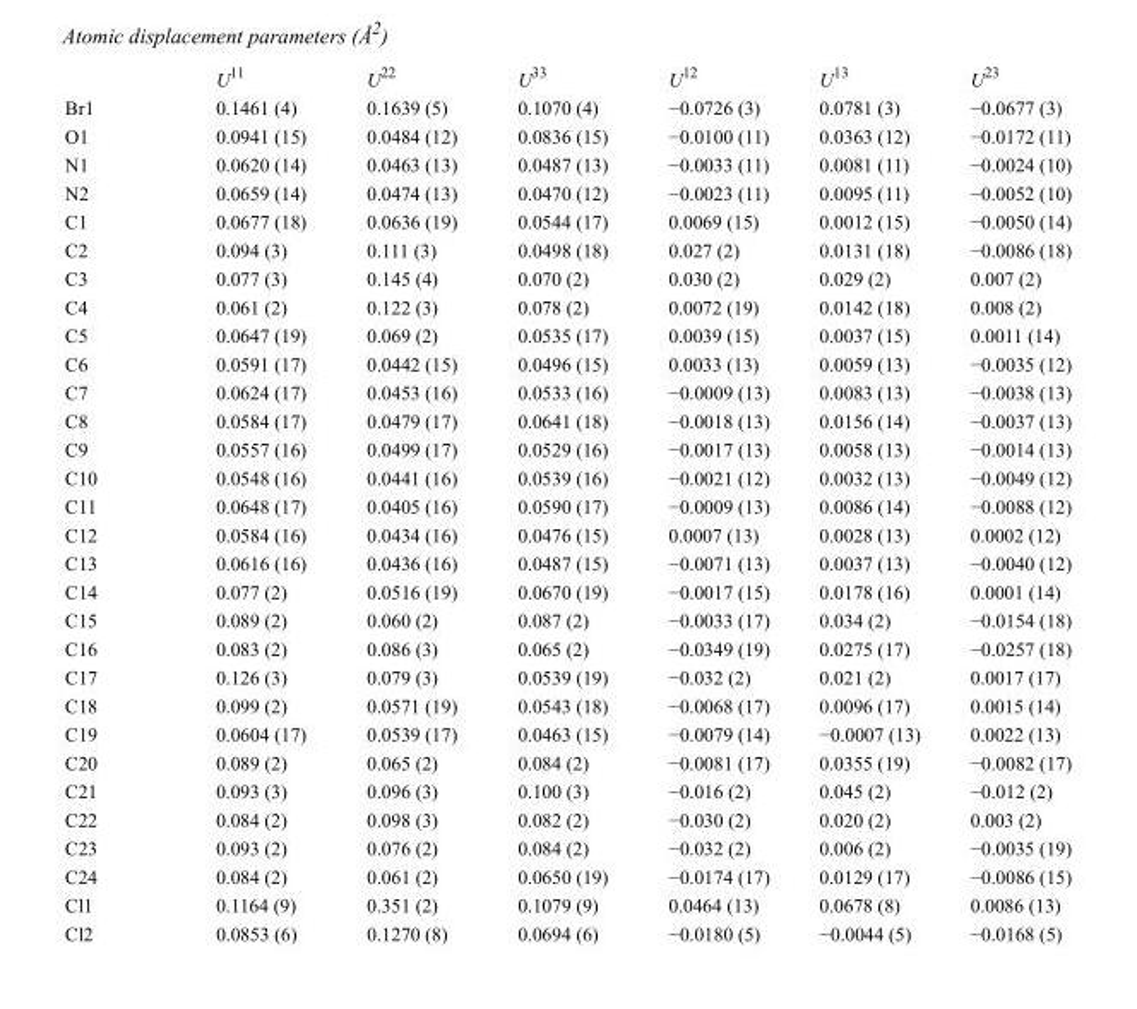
<table><thead><tr><td></td><td>U<sup>11</sup></td><td>U<sup>22</sup></td><td>U<sup>33</sup></td><td>U<sup>12</sup></td><td>U<sup>13</sup></td><td>U<sup>23</sup></td></tr></thead><tbody><tr><td>Br1</td><td>0.1461 (4)</td><td>0.1639 (5)</td><td>0.1070 (4)</td><td>−0.0726 (3)</td><td>0.0781 (3)</td><td>−0.0677 (3)</td></tr><tr><td>O1</td><td>0.0941 (15)</td><td>0.0484 (12)</td><td>0.0836 (15)</td><td>−0.0100 (11)</td><td>0.0363 (12)</td><td>−0.0172 (11)</td></tr><tr><td>N1</td><td>0.0620 (14)</td><td>0.0463 (13)</td><td>0.0487 (13)</td><td>−0.0033 (11)</td><td>0.0081 (11)</td><td>−0.0024 (10)</td></tr><tr><td>N2</td><td>0.0659 (14)</td><td>0.0474 (13)</td><td>0.0470 (12)</td><td>−0.0023 (11)</td><td>0.0095 (11)</td><td>−0.0052 (10)</td></tr><tr><td>C1</td><td>0.0677 (18)</td><td>0.0636 (19)</td><td>0.0544 (17)</td><td>0.0069 (15)</td><td>0.0012 (15)</td><td>−0.0050 (14)</td></tr><tr><td>C2</td><td>0.094 (3)</td><td>0.111 (3)</td><td>0.0498 (18)</td><td>0.027 (2)</td><td>0.0131 (18)</td><td>−0.0086 (18)</td></tr><tr><td>C3</td><td>0.077 (3)</td><td>0.145 (4)</td><td>0.070 (2)</td><td>0.030 (2)</td><td>0.029 (2)</td><td>0.007 (2)</td></tr><tr><td>C4</td><td>0.061 (2)</td><td>0.122 (3)</td><td>0.078 (2)</td><td>0.0072 (19)</td><td>0.0142 (18)</td><td>0.008 (2)</td></tr><tr><td>C5</td><td>0.0647 (19)</td><td>0.069 (2)</td><td>0.0535 (17)</td><td>0.0039 (15)</td><td>0.0037 (15)</td><td>0.0011 (14)</td></tr><tr><td>C6</td><td>0.0591 (17)</td><td>0.0442 (15)</td><td>0.0496 (15)</td><td>0.0033 (13)</td><td>0.0059 (13)</td><td>−0.0035 (12)</td></tr><tr><td>C7</td><td>0.0624 (17)</td><td>0.0453 (16)</td><td>0.0533 (16)</td><td>−0.0009 (13)</td><td>0.0083 (13)</td><td>−0.0038 (13)</td></tr><tr><td>C8</td><td>0.0584 (17)</td><td>0.0479 (17)</td><td>0.0641 (18)</td><td>−0.0018 (13)</td><td>0.0156 (14)</td><td>−0.0037 (13)</td></tr><tr><td>C9</td><td>0.0557 (16)</td><td>0.0499 (17)</td><td>0.0529 (16)</td><td>−0.0017 (13)</td><td>0.0058 (13)</td><td>−0.0014 (13)</td></tr><tr><td>C10</td><td>0.0548 (16)</td><td>0.0441 (16)</td><td>0.0539 (16)</td><td>−0.0021 (12)</td><td>0.0032 (13)</td><td>−0.0049 (12)</td></tr><tr><td>C11</td><td>0.0648 (17)</td><td>0.0405 (16)</td><td>0.0590 (17)</td><td>−0.0009 (13)</td><td>0.0086 (14)</td><td>−0.0088 (12)</td></tr><tr><td>C12</td><td>0.0584 (16)</td><td>0.0434 (16)</td><td>0.0476 (15)</td><td>0.0007 (13)</td><td>0.0028 (13)</td><td>0.0002 (12)</td></tr><tr><td>C13</td><td>0.0616 (16)</td><td>0.0436 (16)</td><td>0.0487 (15)</td><td>−0.0071 (13)</td><td>0.0037 (13)</td><td>−0.0040 (12)</td></tr><tr><td>C14</td><td>0.077 (2)</td><td>0.0516 (19)</td><td>0.0670 (19)</td><td>−0.0017 (15)</td><td>0.0178 (16)</td><td>0.0001 (14)</td></tr><tr><td>C15</td><td>0.089 (2)</td><td>0.060 (2)</td><td>0.087 (2)</td><td>−0.0033 (17)</td><td>0.034 (2)</td><td>−0.0154 (18)</td></tr><tr><td>C16</td><td>0.083 (2)</td><td>0.086 (3)</td><td>0.065 (2)</td><td>−0.0349 (19)</td><td>0.0275 (17)</td><td>−0.0257 (18)</td></tr><tr><td>C17</td><td>0.126 (3)</td><td>0.079 (3)</td><td>0.0539 (19)</td><td>−0.032 (2)</td><td>0.021 (2)</td><td>0.0017 (17)</td></tr><tr><td>C18</td><td>0.099 (2)</td><td>0.0571 (19)</td><td>0.0543 (18)</td><td>−0.0068 (17)</td><td>0.0096 (17)</td><td>0.0015 (14)</td></tr><tr><td>C19</td><td>0.0604 (17)</td><td>0.0539 (17)</td><td>0.0463 (15)</td><td>−0.0079 (14)</td><td>−0.0007 (13)</td><td>0.0022 (13)</td></tr><tr><td>C20</td><td>0.089 (2)</td><td>0.065 (2)</td><td>0.084 (2)</td><td>−0.0081 (17)</td><td>0.0355 (19)</td><td>−0.0082 (17)</td></tr><tr><td>C21</td><td>0.093 (3)</td><td>0.096 (3)</td><td>0.100 (3)</td><td>−0.016 (2)</td><td>0.045 (2)</td><td>−0.012 (2)</td></tr><tr><td>C22</td><td>0.084 (2)</td><td>0.098 (3)</td><td>0.082 (2)</td><td>−0.030 (2)</td><td>0.020 (2)</td><td>0.003 (2)</td></tr><tr><td>C23</td><td>0.093 (2)</td><td>0.076 (2)</td><td>0.084 (2)</td><td>−0.032 (2)</td><td>0.006 (2)</td><td>−0.0035 (19)</td></tr><tr><td>C24</td><td>0.084 (2)</td><td>0.061 (2)</td><td>0.0650 (19)</td><td>−0.0174 (17)</td><td>0.0129 (17)</td><td>−0.0086 (15)</td></tr><tr><td>Cl1</td><td>0.1164 (9)</td><td>0.351 (2)</td><td>0.1079 (9)</td><td>0.0464 (13)</td><td>0.0678 (8)</td><td>0.0086 (13)</td></tr><tr><td>Cl2</td><td>0.0853 (6)</td><td>0.1270 (8)</td><td>0.0694 (6)</td><td>−0.0180 (5)</td><td>−0.0044 (5)</td><td>−0.0168 (5)</td></tr></tbody></table>